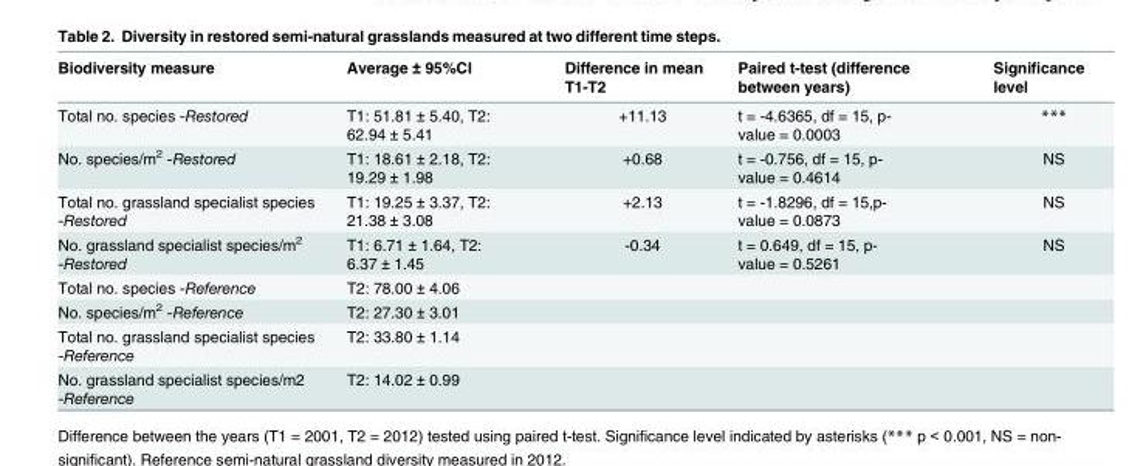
<table><thead><tr><td>Biodiversity measure</td><td>Average ± 95%CI</td><td>Difference in mean T1-T2</td><td>Paired t-test (difference between years)</td><td>Significance level</td></tr></thead><tbody><tr><td>Total no. species -Restored</td><td>T1: 51.81 ± 5.40, T2: 62.94 ± 5.41</td><td>+11.13</td><td>t = -4.6365, df = 15, p- value = 0.0003</td><td>***</td></tr><tr><td>No. species/m<sup>2</sup> -Restored</td><td>T1: 18.61 ± 2.18, T2: 19.29 ± 1.98</td><td>+0.68</td><td>t = -0.756, df = 15, p- value = 0.4614</td><td>NS</td></tr><tr><td>Total no. grassland specialist species -Restored</td><td>T1: 19.25 ± 3.37, T2: 21.38 ± 3.08</td><td>+2.13</td><td>t = -1.8296, df = 15,p- value = 0.0873</td><td>NS</td></tr><tr><td>No. grassland specialist species/m<sup>2</sup> -Restored</td><td>T1: 6.71 ± 1.64, T2: 6.37 ± 1.45</td><td>-0.34</td><td>t = 0.649, df = 15, p- value = 0.5261</td><td>NS</td></tr><tr><td>Total no. species -Reference</td><td>T2: 78.00 ± 4.06</td><td></td><td></td><td></td></tr><tr><td>No. species/m<sup>2</sup> -Reference</td><td>T2: 27.30 ± 3.01</td><td></td><td></td><td></td></tr><tr><td>Total no. grassland specialist species -Reference</td><td>T2: 33.80 ± 1.14</td><td></td><td></td><td></td></tr><tr><td>No. grassland specialist species/m2 -Reference</td><td>T2: 14.02 ± 0.99</td><td></td><td></td><td></td></tr></tbody></table>